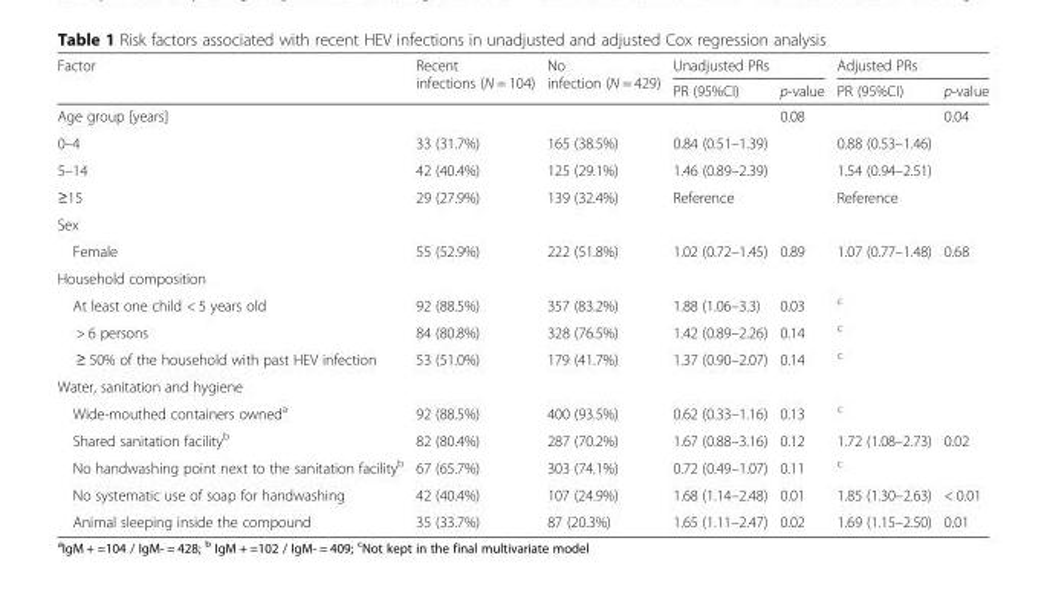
<table><thead><tr><td rowspan="2">Factor</td><td rowspan="2">Recent infections (N = 104)</td><td rowspan="2">No infection (N = 429)</td><td colspan="2">Unadjusted PRs</td><td colspan="2">Adjusted PRs</td></tr><tr><td>PR (95%CI)</td><td>p-value</td><td>PR (95%CI)</td><td>p-value</td></tr></thead><tbody><tr><td>Age group [years]</td><td></td><td></td><td></td><td>0.08</td><td></td><td>0.04</td></tr><tr><td>0–4</td><td>33 (31.7%)</td><td>165 (38.5%)</td><td>0.84 (0.51–1.39)</td><td></td><td>0.88 (0.53–1.46)</td><td></td></tr><tr><td>5–14</td><td>42 (40.4%)</td><td>125 (29.1%)</td><td>1.46 (0.89–2.39)</td><td></td><td>1.54 (0.94–2.51)</td><td></td></tr><tr><td>≥15</td><td>29 (27.9%)</td><td>139 (32.4%)</td><td colspan="2">Reference</td><td colspan="2">Reference</td></tr><tr><td colspan="7">Sex</td></tr><tr><td>Female</td><td>55 (52.9%)</td><td>222 (51.8%)</td><td>1.02 (0.72–1.45)</td><td>0.89</td><td>1.07 (0.77–1.48)</td><td>0.68</td></tr><tr><td colspan="7">Household composition</td></tr><tr><td>At least one child &lt; 5 years old</td><td>92 (88.5%)</td><td>357 (83.2%)</td><td>1.88 (1.06–3.3)</td><td>0.03</td><td colspan="2"><sup>c</sup></td></tr><tr><td>&gt; 6 persons</td><td>84 (80.8%)</td><td>328 (76.5%)</td><td>1.42 (0.89–2.26)</td><td>0.14</td><td colspan="2"><sup>c</sup></td></tr><tr><td>≥ 50% of the household with past HEV infection</td><td>53 (51.0%)</td><td>179 (41.7%)</td><td>1.37 (0.90–2.07)</td><td>0.14</td><td colspan="2"><sup>c</sup></td></tr><tr><td colspan="7">Water, sanitation and hygiene</td></tr><tr><td>Wide-mouthed containers owned<sup>a</sup></td><td>92 (88.5%)</td><td>400 (93.5%)</td><td>0.62 (0.33–1.16)</td><td>0.13</td><td colspan="2"><sup>c</sup></td></tr><tr><td>Shared sanitation facility<sup>b</sup></td><td>82 (80.4%)</td><td>287 (70.2%)</td><td>1.67 (0.88–3.16)</td><td>0.12</td><td>1.72 (1.08–2.73)</td><td>0.02</td></tr><tr><td>No handwashing point next to the sanitation facility<sup>b</sup></td><td>67 (65.7%)</td><td>303 (74.1%)</td><td>0.72 (0.49–1.07)</td><td>0.11</td><td colspan="2"><sup>c</sup></td></tr><tr><td>No systematic use of soap for handwashing</td><td>42 (40.4%)</td><td>107 (24.9%)</td><td>1.68 (1.14–2.48)</td><td>0.01</td><td>1.85 (1.30–2.63)</td><td>&lt; 0.01</td></tr><tr><td>Animal sleeping inside the compound</td><td>35 (33.7%)</td><td>87 (20.3%)</td><td>1.65 (1.11–2.47)</td><td>0.02</td><td>1.69 (1.15–2.50)</td><td>0.01</td></tr></tbody></table>